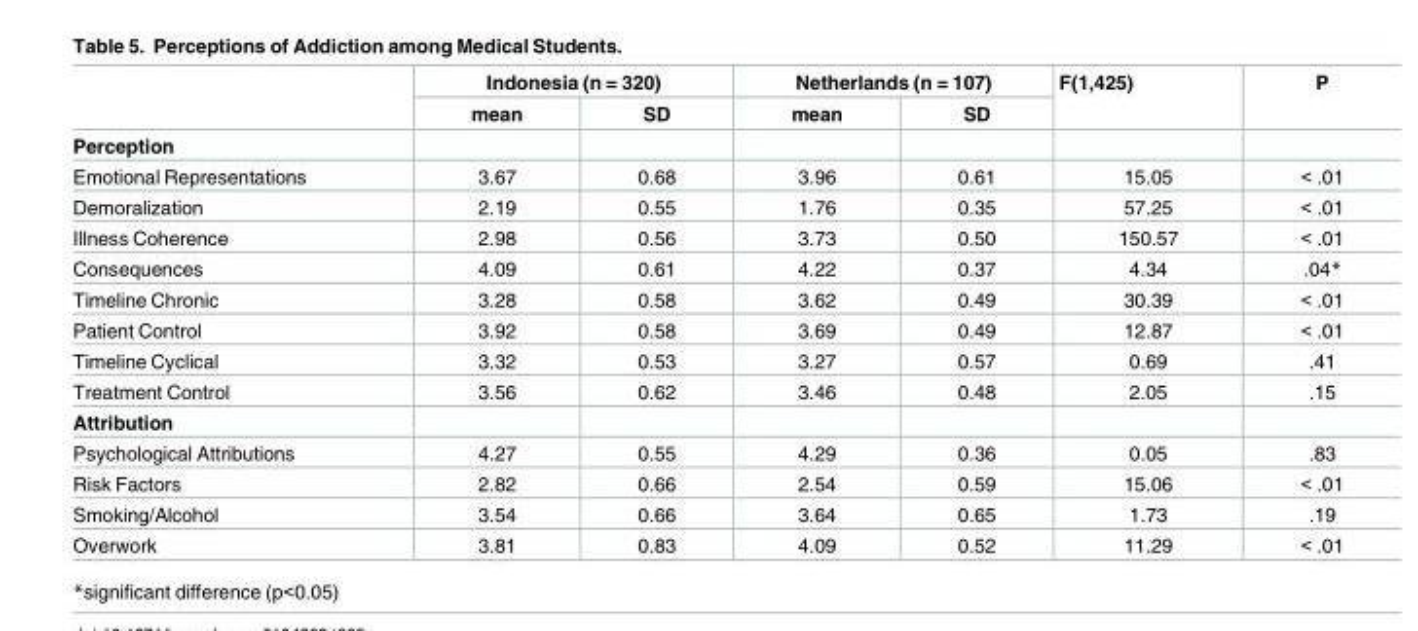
<table><thead><tr><td rowspan="2"></td><td colspan="2">Indonesia (n = 320)</td><td colspan="2">Netherlands (n = 107)</td><td rowspan="2">F(1,425)</td><td rowspan="2">P</td></tr><tr><td>mean</td><td>SD</td><td>mean</td><td>SD</td></tr></thead><tbody><tr><td colspan="7">Perception</td></tr><tr><td>Emotional Representations</td><td>3.67</td><td>0.68</td><td>3.96</td><td>0.61</td><td>15.05</td><td>&lt; .01</td></tr><tr><td>Demoralization</td><td>2.19</td><td>0.55</td><td>1.76</td><td>0.35</td><td>57.25</td><td>&lt; .01</td></tr><tr><td>Illness Coherence</td><td>2.98</td><td>0.56</td><td>3.73</td><td>0.50</td><td>150.57</td><td>&lt; .01</td></tr><tr><td>Consequences</td><td>4.09</td><td>0.61</td><td>4.22</td><td>0.37</td><td>4.34</td><td>.04*</td></tr><tr><td>Timeline Chronic</td><td>3.28</td><td>0.58</td><td>3.62</td><td>0.49</td><td>30.39</td><td>&lt; .01</td></tr><tr><td>Patient Control</td><td>3.92</td><td>0.58</td><td>3.69</td><td>0.49</td><td>12.87</td><td>&lt; .01</td></tr><tr><td>Timeline Cyclical</td><td>3.32</td><td>0.53</td><td>3.27</td><td>0.57</td><td>0.69</td><td>.41</td></tr><tr><td>Treatment Control</td><td>3.56</td><td>0.62</td><td>3.46</td><td>0.48</td><td>2.05</td><td>.15</td></tr><tr><td colspan="7">Attribution</td></tr><tr><td>Psychological Attributions</td><td>4.27</td><td>0.55</td><td>4.29</td><td>0.36</td><td>0.05</td><td>.83</td></tr><tr><td>Risk Factors</td><td>2.82</td><td>0.66</td><td>2.54</td><td>0.59</td><td>15.06</td><td>&lt; .01</td></tr><tr><td>Smoking/Alcohol</td><td>3.54</td><td>0.66</td><td>3.64</td><td>0.65</td><td>1.73</td><td>.19</td></tr><tr><td>Overwork</td><td>3.81</td><td>0.83</td><td>4.09</td><td>0.52</td><td>11.29</td><td>&lt; .01</td></tr></tbody></table>